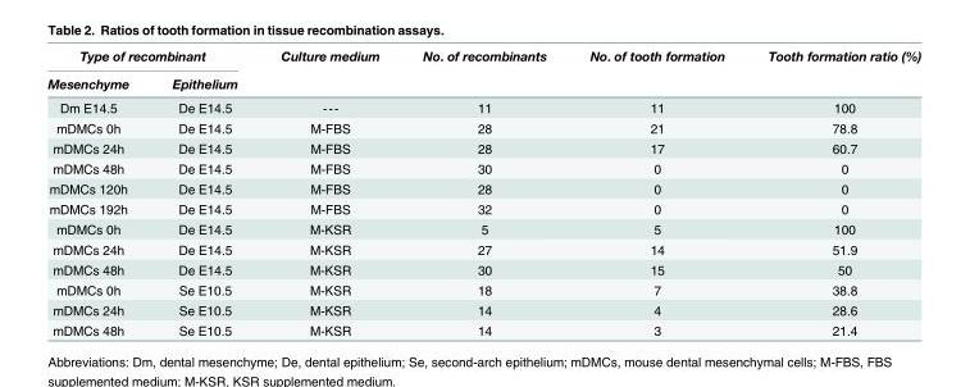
<table><thead><tr><td colspan="2">Type of recombinant</td><td rowspan="2">Culture medium</td><td rowspan="2">No. of recombinants</td><td rowspan="2">No. of tooth formation</td><td rowspan="2">Tooth formation ratio (%)</td></tr><tr><td>Mesenchyme</td><td>Epithelium</td></tr></thead><tbody><tr><td>Dm E14.5</td><td>De E14.5</td><td>---</td><td>11</td><td>11</td><td>100</td></tr><tr><td>mDMCs 0h</td><td>De E14.5</td><td>M-FBS</td><td>28</td><td>21</td><td>78.8</td></tr><tr><td>mDMCs 24h</td><td>De E14.5</td><td>M-FBS</td><td>28</td><td>17</td><td>60.7</td></tr><tr><td>mDMCs 48h</td><td>De E14.5</td><td>M-FBS</td><td>30</td><td>0</td><td>0</td></tr><tr><td>mDMCs 120h</td><td>De E14.5</td><td>M-FBS</td><td>28</td><td>0</td><td>0</td></tr><tr><td>mDMCs 192h</td><td>De E14.5</td><td>M-FBS</td><td>32</td><td>0</td><td>0</td></tr><tr><td>mDMCs 0h</td><td>De E14.5</td><td>M-KSR</td><td>5</td><td>5</td><td>100</td></tr><tr><td>mDMCs 24h</td><td>De E14.5</td><td>M-KSR</td><td>27</td><td>14</td><td>51.9</td></tr><tr><td>mDMCs 48h</td><td>De E14.5</td><td>M-KSR</td><td>30</td><td>15</td><td>50</td></tr><tr><td>mDMCs 0h</td><td>Se E10.5</td><td>M-KSR</td><td>18</td><td>7</td><td>38.8</td></tr><tr><td>mDMCs 24h</td><td>Se E10.5</td><td>M-KSR</td><td>14</td><td>4</td><td>28.6</td></tr><tr><td>mDMCs 48h</td><td>Se E10.5</td><td>M-KSR</td><td>14</td><td>3</td><td>21.4</td></tr></tbody></table>